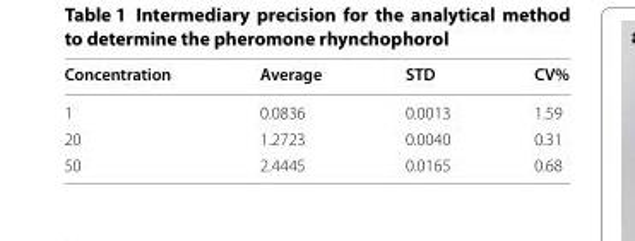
<table><thead><tr><td>Concentration</td><td>Average</td><td>STD</td><td>CV%</td></tr></thead><tbody><tr><td>1</td><td>0.0836</td><td>0.0013</td><td>1.59</td></tr><tr><td>20</td><td>1.2723</td><td>0.0040</td><td>0.31</td></tr><tr><td>50</td><td>2.4445</td><td>0.0165</td><td>0.68</td></tr></tbody></table>